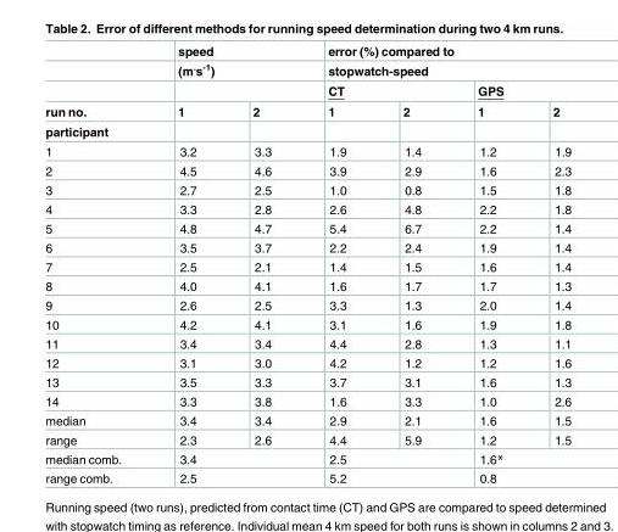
<table><thead><tr><td rowspan="5">run no. participant</td><td rowspan="2" colspan="2">speed (m<sup>.</sup>s<sup>-1</sup>)</td><td rowspan="2" colspan="4">error (%) compared to stopwatch-speed</td></tr><tr></tr><tr><td rowspan="3">1</td><td rowspan="3">2</td><td colspan="2">CT</td><td colspan="2">GPS</td></tr><tr><td rowspan="2">1</td><td rowspan="2">2</td><td rowspan="2">1</td><td rowspan="2">2</td></tr><tr></tr></thead><tbody><tr><td>1</td><td>3.2</td><td>3.3</td><td>1.9</td><td>1.4</td><td>1.2</td><td>1.9</td></tr><tr><td>2</td><td>4.5</td><td>4.6</td><td>3.9</td><td>2.9</td><td>1.6</td><td>2.3</td></tr><tr><td>3</td><td>2.7</td><td>2.5</td><td>1.0</td><td>0.8</td><td>1.5</td><td>1.8</td></tr><tr><td>4</td><td>3.3</td><td>2.8</td><td>2.6</td><td>4.8</td><td>2.2</td><td>1.8</td></tr><tr><td>5</td><td>4.8</td><td>4.7</td><td>5.4</td><td>6.7</td><td>2.2</td><td>1.4</td></tr><tr><td>6</td><td>3.5</td><td>3.7</td><td>2.2</td><td>2.4</td><td>1.9</td><td>1.4</td></tr><tr><td>7</td><td>2.5</td><td>2.1</td><td>1.4</td><td>1.5</td><td>1.6</td><td>1.4</td></tr><tr><td>8</td><td>4.0</td><td>4.1</td><td>1.6</td><td>1.7</td><td>1.7</td><td>1.3</td></tr><tr><td>9</td><td>2.6</td><td>2.5</td><td>3.3</td><td>1.3</td><td>2.0</td><td>1.4</td></tr><tr><td>10</td><td>4.2</td><td>4.1</td><td>3.1</td><td>1.6</td><td>1.9</td><td>1.8</td></tr><tr><td>11</td><td>3.4</td><td>3.4</td><td>4.4</td><td>2.8</td><td>1.3</td><td>1.1</td></tr><tr><td>12</td><td>3.1</td><td>3.0</td><td>4.2</td><td>1.2</td><td>1.2</td><td>1.6</td></tr><tr><td>13</td><td>3.5</td><td>3.3</td><td>3.7</td><td>3.1</td><td>1.6</td><td>1.3</td></tr><tr><td>14</td><td>3.3</td><td>3.8</td><td>1.6</td><td>3.3</td><td>1.0</td><td>2.6</td></tr><tr><td>median</td><td>3.4</td><td>3.4</td><td>2.9</td><td>2.1</td><td>1.6</td><td>1.5</td></tr><tr><td>range</td><td>2.3</td><td>2.6</td><td>4.4</td><td>5.9</td><td>1.2</td><td>1.5</td></tr><tr><td>median comb.</td><td colspan="2">3.4</td><td colspan="2">2.5</td><td colspan="2">1.6*</td></tr><tr><td>range comb.</td><td colspan="2">2.5</td><td colspan="2">5.2</td><td colspan="2">0.8</td></tr></tbody></table>